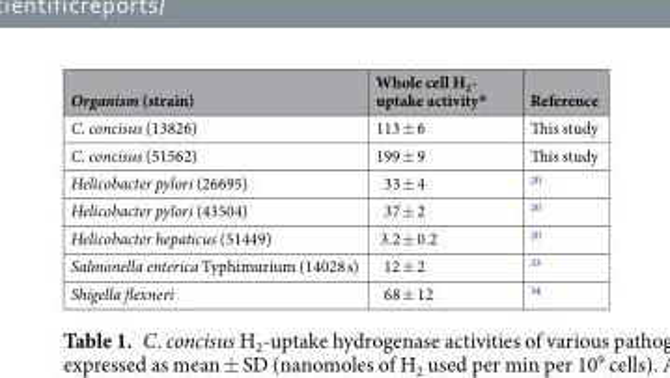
<table><thead><tr><td>Organism (strain)</td><td>Whole cell H<sub>2</sub>- uptake activity*</td><td>Reference</td></tr></thead><tbody><tr><td>C. concisus (13826)</td><td>113 ± 6</td><td>This study</td></tr><tr><td>C. concisus (51562)</td><td>199 ± 9</td><td>This study</td></tr><tr><td>Helicobacter pylori (26695)</td><td>33 ± 4</td><td><sup>20</sup></td></tr><tr><td>Helicobacter pylori (43504)</td><td>37 ± 2</td><td><sup>20</sup></td></tr><tr><td>Helicobacter hepaticus (51449)</td><td>3.2 ± 0.2</td><td><sup>20</sup></td></tr><tr><td>Salmonella enterica Typhimurium (14028 s)</td><td>12 ± 2</td><td><sup>33</sup></td></tr><tr><td>Shigella flexneri</td><td>68 ± 12</td><td><sup>34</sup></td></tr></tbody></table>